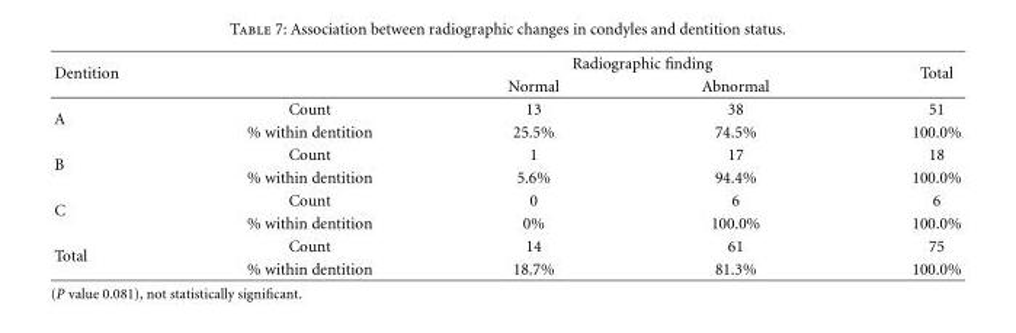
<table><thead><tr><td rowspan="2">Dentition</td><td rowspan="2"></td><td colspan="2">Radiographic finding</td><td rowspan="2">Total</td></tr><tr><td>Normal</td><td>Abnormal</td></tr></thead><tbody><tr><td rowspan="2">A</td><td>Count</td><td>13</td><td>38</td><td>51</td></tr><tr><td>% within dentition</td><td>25.5%</td><td>74.5%</td><td>100.0%</td></tr><tr><td rowspan="2">B</td><td>Count</td><td>1</td><td>17</td><td>18</td></tr><tr><td>% within dentition</td><td>5.6%</td><td>94.4%</td><td>100.0%</td></tr><tr><td rowspan="2">C</td><td>Count</td><td>0</td><td>6</td><td>6</td></tr><tr><td>% within dentition</td><td>0%</td><td>100.0%</td><td>100.0%</td></tr><tr><td rowspan="2">Total</td><td>Count</td><td>14</td><td>61</td><td>75</td></tr><tr><td>% within dentition</td><td>18.7%</td><td>81.3%</td><td>100.0%</td></tr></tbody></table>